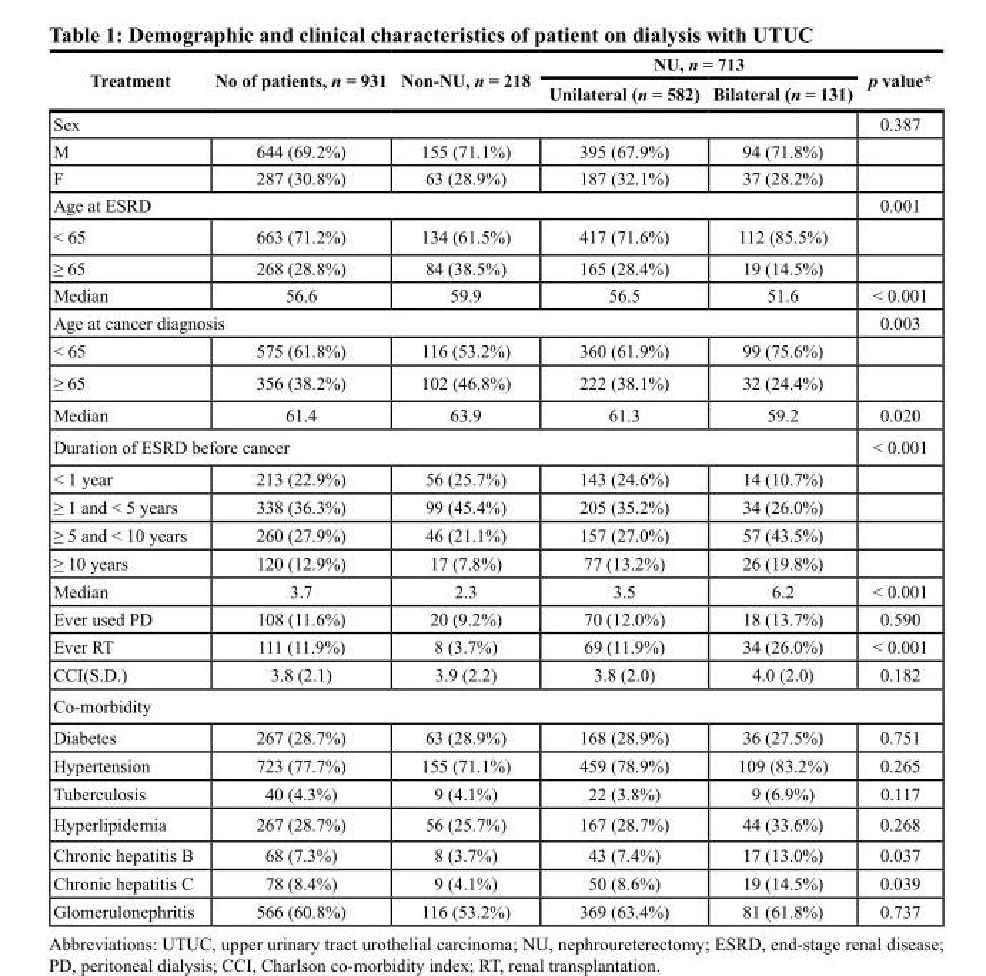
<table><thead><tr><td rowspan="2">Treatment</td><td rowspan="2">No of patients, n = 931</td><td rowspan="2">Non-NU, n = 218</td><td colspan="2">NU, n = 713</td><td rowspan="2">p value*</td></tr><tr><td>Unilateral (n = 582)</td><td>Bilateral (n = 131)</td></tr></thead><tbody><tr><td colspan="5">Sex</td><td>0.387</td></tr><tr><td>M</td><td>644 (69.2%)</td><td>155 (71.1%)</td><td>395 (67.9%)</td><td>94 (71.8%)</td><td></td></tr><tr><td>F</td><td>287 (30.8%)</td><td>63 (28.9%)</td><td>187 (32.1%)</td><td>37 (28.2%)</td><td></td></tr><tr><td colspan="5">Age at ESRD</td><td>0.001</td></tr><tr><td>&lt; 65</td><td>663 (71.2%)</td><td>134 (61.5%)</td><td>417 (71.6%)</td><td>112 (85.5%)</td><td></td></tr><tr><td>≥ 65</td><td>268 (28.8%)</td><td>84 (38.5%)</td><td>165 (28.4%)</td><td>19 (14.5%)</td><td></td></tr><tr><td>Median</td><td>56.6</td><td>59.9</td><td>56.5</td><td>51.6</td><td>&lt; 0.001</td></tr><tr><td colspan="5">Age at cancer diagnosis</td><td>0.003</td></tr><tr><td>&lt; 65</td><td>575 (61.8%)</td><td>116 (53.2%)</td><td>360 (61.9%)</td><td>99 (75.6%)</td><td></td></tr><tr><td>≥ 65</td><td>356 (38.2%)</td><td>102 (46.8%)</td><td>222 (38.1%)</td><td>32 (24.4%)</td><td></td></tr><tr><td>Median</td><td>61.4</td><td>63.9</td><td>61.3</td><td>59.2</td><td>0.020</td></tr><tr><td colspan="5">Duration of ESRD before cancer</td><td>&lt; 0.001</td></tr><tr><td>&lt; 1 year</td><td>213 (22.9%)</td><td>56 (25.7%)</td><td>143 (24.6%)</td><td>14 (10.7%)</td><td></td></tr><tr><td>≥ 1 and &lt; 5 years</td><td>338 (36.3%)</td><td>99 (45.4%)</td><td>205 (35.2%)</td><td>34 (26.0%)</td><td></td></tr><tr><td>≥ 5 and &lt; 10 years</td><td>260 (27.9%)</td><td>46 (21.1%)</td><td>157 (27.0%)</td><td>57 (43.5%)</td><td></td></tr><tr><td>≥ 10 years</td><td>120 (12.9%)</td><td>17 (7.8%)</td><td>77 (13.2%)</td><td>26 (19.8%)</td><td></td></tr><tr><td>Median</td><td>3.7</td><td>2.3</td><td>3.5</td><td>6.2</td><td>&lt; 0.001</td></tr><tr><td>Ever used PD</td><td>108 (11.6%)</td><td>20 (9.2%)</td><td>70 (12.0%)</td><td>18 (13.7%)</td><td>0.590</td></tr><tr><td>Ever RT</td><td>111 (11.9%)</td><td>8 (3.7%)</td><td>69 (11.9%)</td><td>34 (26.0%)</td><td>&lt; 0.001</td></tr><tr><td>CCI(S.D.)</td><td>3.8 (2.1)</td><td>3.9 (2.2)</td><td>3.8 (2.0)</td><td>4.0 (2.0)</td><td>0.182</td></tr><tr><td colspan="6">Co-morbidity</td></tr><tr><td>Diabetes</td><td>267 (28.7%)</td><td>63 (28.9%)</td><td>168 (28.9%)</td><td>36 (27.5%)</td><td>0.751</td></tr><tr><td>Hypertension</td><td>723 (77.7%)</td><td>155 (71.1%)</td><td>459 (78.9%)</td><td>109 (83.2%)</td><td>0.265</td></tr><tr><td>Tuberculosis</td><td>40 (4.3%)</td><td>9 (4.1%)</td><td>22 (3.8%)</td><td>9 (6.9%)</td><td>0.117</td></tr><tr><td>Hyperlipidemia</td><td>267 (28.7%)</td><td>56 (25.7%)</td><td>167 (28.7%)</td><td>44 (33.6%)</td><td>0.268</td></tr><tr><td>Chronic hepatitis B</td><td>68 (7.3%)</td><td>8 (3.7%)</td><td>43 (7.4%)</td><td>17 (13.0%)</td><td>0.037</td></tr><tr><td>Chronic hepatitis C</td><td>78 (8.4%)</td><td>9 (4.1%)</td><td>50 (8.6%)</td><td>19 (14.5%)</td><td>0.039</td></tr><tr><td>Glomerulonephritis</td><td>566 (60.8%)</td><td>116 (53.2%)</td><td>369 (63.4%)</td><td>81 (61.8%)</td><td>0.737</td></tr></tbody></table>